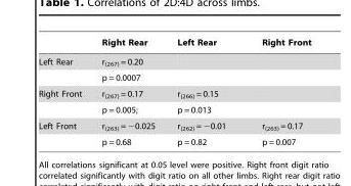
<table><thead><tr><td></td><td>Right Rear</td><td>Left Rear</td><td>Right Front</td></tr></thead><tbody><tr><td rowspan="2">Left Rear</td><td>r<sub>(267)</sub> = 0.20</td><td></td><td></td></tr><tr><td>p = 0.0007</td><td></td><td></td></tr><tr><td rowspan="2">Right Front</td><td>r<sub>(267)</sub> = 0.17</td><td>r<sub>(266)</sub> = 0.15</td><td></td></tr><tr><td>p = 0.005;</td><td>p = 0.013</td><td></td></tr><tr><td rowspan="2">Left Front</td><td>r<sub>(263)</sub> = −0.025</td><td>r<sub>(262)</sub> = −0.01</td><td>r<sub>(263)</sub> = 0.17</td></tr><tr><td>p = 0.68</td><td>p = 0.82</td><td>p = 0.007</td></tr></tbody></table>